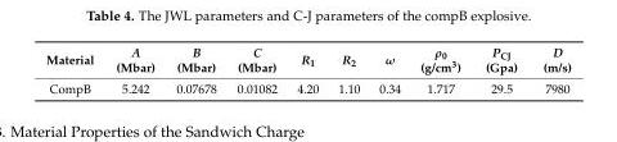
<table><thead><tr><td>Material</td><td>A (Mbar)</td><td>B (Mbar)</td><td>C (Mbar)</td><td>R<sub>1</sub></td><td>R<sub>2</sub></td><td>ω</td><td>ρ<sub>0</sub> (g/cm<sup>3</sup>)</td><td>P<sub>CJ</sub> (Gpa)</td><td>D (m/s)</td></tr></thead><tbody><tr><td>CompB</td><td>5.242</td><td>0.07678</td><td>0.01082</td><td>4.20</td><td>1.10</td><td>0.34</td><td>1.717</td><td>29.5</td><td>7980</td></tr></tbody></table>